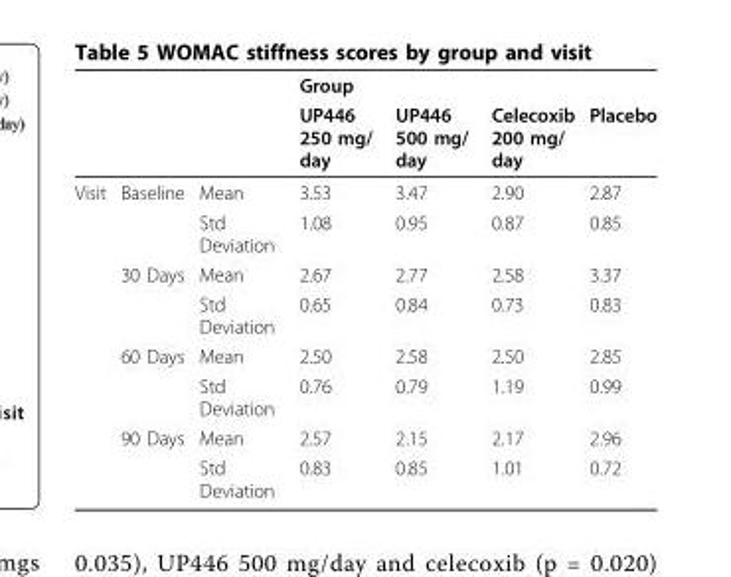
<table><thead><tr><td rowspan="2"></td><td rowspan="2"></td><td rowspan="2"></td><td colspan="4">Group</td></tr><tr><td>UP446 250 mg/ day</td><td>UP446 500 mg/ day</td><td>Celecoxib 200 mg/ day</td><td>Placebo</td></tr></thead><tbody><tr><td rowspan="8">Visit</td><td>Baseline</td><td>Mean</td><td>3.53</td><td>3.47</td><td>2.90</td><td>2.87</td></tr><tr><td></td><td>Std Deviation</td><td>1.08</td><td>0.95</td><td>0.87</td><td>0.85</td></tr><tr><td>30 Days</td><td>Mean</td><td>2.67</td><td>2.77</td><td>2.58</td><td>3.37</td></tr><tr><td></td><td>Std Deviation</td><td>0.65</td><td>0.84</td><td>0.73</td><td>0.83</td></tr><tr><td>60 Days</td><td>Mean</td><td>2.50</td><td>2.58</td><td>2.50</td><td>2.85</td></tr><tr><td></td><td>Std Deviation</td><td>0.76</td><td>0.79</td><td>1.19</td><td>0.99</td></tr><tr><td>90 Days</td><td>Mean</td><td>2.57</td><td>2.15</td><td>2.17</td><td>2.96</td></tr><tr><td></td><td>Std Deviation</td><td>0.83</td><td>0.85</td><td>1.01</td><td>0.72</td></tr></tbody></table>